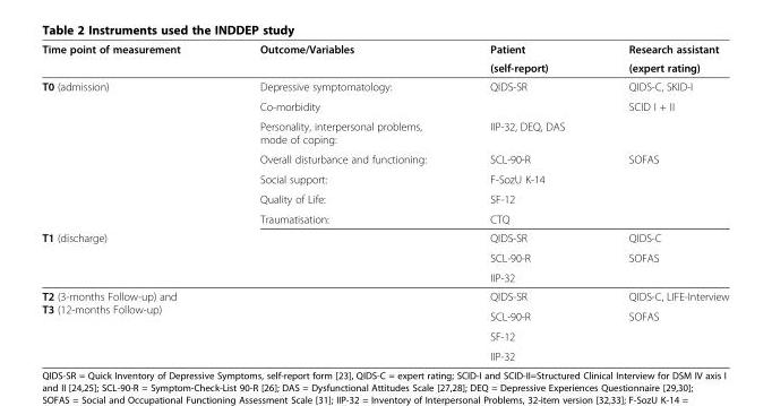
<table><thead><tr><td rowspan="2">Time point of measurement</td><td rowspan="2">Outcome/Variables</td><td rowspan="2">Patient (self-report)</td><td rowspan="2">Research assistant (expert rating)</td></tr><tr></tr></thead><tbody><tr><td rowspan="7">T0 (admission)</td><td>Depressive symptomatology:</td><td>QIDS-SR</td><td>QIDS-C, SKID-I</td></tr><tr><td>Co-morbidity</td><td></td><td>SCID I + II</td></tr><tr><td>Personality, interpersonal problems, mode of coping:</td><td>IIP-32, DEQ, DAS</td><td></td></tr><tr><td>Overall disturbance and functioning:</td><td>SCL-90-R</td><td>SOFAS</td></tr><tr><td>Social support:</td><td>F-SozU K-14</td><td></td></tr><tr><td>Quality of Life:</td><td>SF-12</td><td></td></tr><tr><td>Traumatisation:</td><td>CTQ</td><td></td></tr><tr><td rowspan="3">T1 (discharge)</td><td></td><td>QIDS-SR</td><td>QIDS-C</td></tr><tr><td></td><td>SCL-90-R</td><td>SOFAS</td></tr><tr><td></td><td>IIP-32</td><td></td></tr><tr><td rowspan="4">T2 (3-months Follow-up) and T3 (12-months Follow-up)</td><td rowspan="3"></td><td>QIDS-SR</td><td>QIDS-C, LIFE-Interview</td></tr><tr><td>SCL-90-R</td><td>SOFAS</td></tr><tr><td>SF-12</td><td></td></tr><tr><td></td><td>IIP-32</td><td></td></tr></tbody></table>